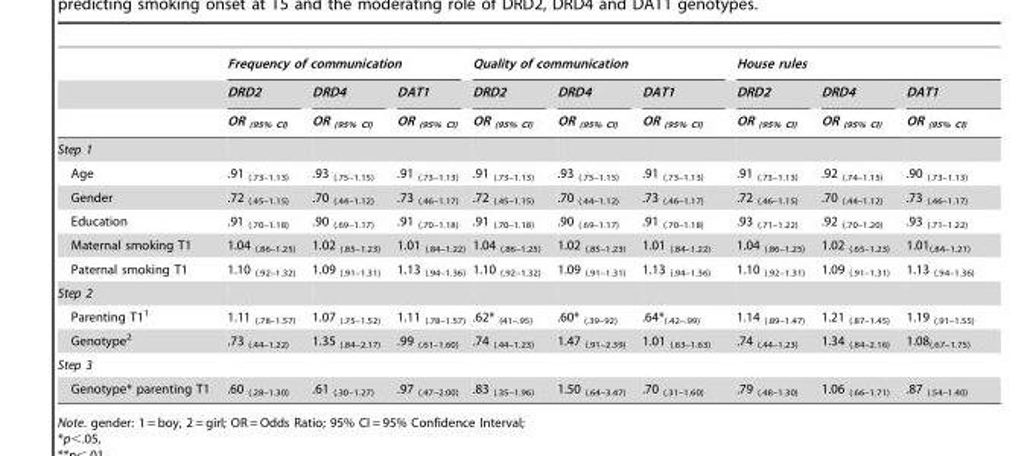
<table><thead><tr><td rowspan="3"></td><td colspan="3">Frequency of communication</td><td colspan="3">Quality of communication</td><td colspan="3">House rules</td></tr><tr><td rowspan="2">DRD2 OR <sub>(95% CI)</sub></td><td rowspan="2">DRD4 OR <sub>(95% CI)</sub></td><td rowspan="2">DAT1 OR <sub>(95% CI)</sub></td><td rowspan="2">DRD2 OR <sub>(95% CI)</sub></td><td rowspan="2">DRD4 OR <sub>(95% CI)</sub></td><td rowspan="2">DAT1 OR <sub>(95% CI)</sub></td><td rowspan="2">DRD2 OR <sub>(95% CI)</sub></td><td rowspan="2">DRD4 OR <sub>(95% CI)</sub></td><td rowspan="2">DAT1 OR <sub>(95% CI)</sub></td></tr><tr></tr></thead><tbody><tr><td colspan="10">Step 1</td></tr><tr><td>Age</td><td>.91 <sub>(.73–1.13)</sub></td><td>.93 <sub>(.75–1.15)</sub></td><td>.91 <sub>(.73–1.13)</sub></td><td>.91 <sub>(.73–1.13)</sub></td><td>.93 <sub>(.75–1.15)</sub></td><td>.91 <sub>(.73–1.13)</sub></td><td>.91 <sub>(.73–1.13)</sub></td><td>.92 <sub>(.74–1.15)</sub></td><td>.90 <sub>(.73–1.13)</sub></td></tr><tr><td>Gender</td><td>.72 <sub>(.45–1.15)</sub></td><td>.70 <sub>(.44–1.12)</sub></td><td>.73 <sub>(.46–1.17)</sub></td><td>.72 <sub>(.45–1.15)</sub></td><td>.70 <sub>(.44–1.12)</sub></td><td>.73 <sub>(.46–1.17)</sub></td><td>.72 <sub>(.46–1.15)</sub></td><td>.70 <sub>(.44–1.12)</sub></td><td>.73 <sub>(.46–1.17)</sub></td></tr><tr><td>Education</td><td>.91 <sub>(.70–1.18)</sub></td><td>.90 <sub>(.69–1.17)</sub></td><td>.91 <sub>(.70–1.18)</sub></td><td>.91 <sub>(.70–1.18)</sub></td><td>.90 <sub>(.69–1.17)</sub></td><td>.91 <sub>(.70–1.18)</sub></td><td>.93 <sub>(.71–1.22)</sub></td><td>.92 <sub>(.70–1.20)</sub></td><td>.93 <sub>(.71–1.22)</sub></td></tr><tr><td>Maternal smoking T1</td><td>1.04 <sub>(.86–1.25)</sub></td><td>1.02 <sub>(.85–1.23)</sub></td><td>1.01 <sub>(.84–1.22)</sub></td><td>1.04 <sub>(.86–1.25)</sub></td><td>1.02 <sub>(.85–1.23)</sub></td><td>1.01 <sub>(.84–1.22)</sub></td><td>1.04 <sub>(.86–1.25)</sub></td><td>1.02 <sub>(.65–1.23)</sub></td><td>1.01<sub>(.84–1.21)</sub></td></tr><tr><td>Paternal smoking T1</td><td>1.10 <sub>(.92–1.32)</sub></td><td>1.09 <sub>(.91–1.31)</sub></td><td>1.13 <sub>(.94–1.36)</sub></td><td>1.10 <sub>(.92–1.32)</sub></td><td>1.09 <sub>(.91–1.31)</sub></td><td>1.13 <sub>(.94–1.36)</sub></td><td>1.10 <sub>(.92–1.31)</sub></td><td>1.09 <sub>(.91–1.31)</sub></td><td>1.13 <sub>(.94–1.36)</sub></td></tr><tr><td colspan="10">Step 2</td></tr><tr><td>Parenting T1<sup>1</sup></td><td>1.11 <sub>(.78–1.57)</sub></td><td>1.07 <sub>(.75–1.52)</sub></td><td>1.11 <sub>(.78–1.57)</sub></td><td>.62* <sub>(41–.95)</sub></td><td>.60* <sub>(.39–92)</sub></td><td>.64*<sub>(.42–.99)</sub></td><td>1.14 <sub>(.89–1.47)</sub></td><td>1.21 <sub>(.87–1.45)</sub></td><td>1.19 <sub>(.91–1.55)</sub></td></tr><tr><td>Genotype<sup>2</sup></td><td>.73 <sub>(.44–1.22)</sub></td><td>1.35 <sub>(.84–2.17)</sub></td><td>.99 <sub>(.61–1.60)</sub></td><td>.74 <sub>(.44–1.23)</sub></td><td>1.47 <sub>(.91–2.39)</sub></td><td>1.01 <sub>(.63–1.63)</sub></td><td>.74 <sub>(.44–1.23)</sub></td><td>1.34 <sub>(.84–2.16)</sub></td><td>1.08<sub>(.67–1.75)</sub></td></tr><tr><td colspan="10">Step 3</td></tr><tr><td>Genotype* parenting T1</td><td>.60 <sub>(.28–1.30)</sub></td><td>.61 <sub>(.30–1.27)</sub></td><td>.97 <sub>(.47–2.00)</sub></td><td>.83 <sub>(.35–1.96)</sub></td><td>1.50 <sub>(.64–3.47)</sub></td><td>.70 <sub>(.31–1.60)</sub></td><td>.79 <sub>(.48–1.30)</sub></td><td>1.06 <sub>(.66–1.71)</sub></td><td>.87 <sub>(.54–1.40)</sub></td></tr></tbody></table>